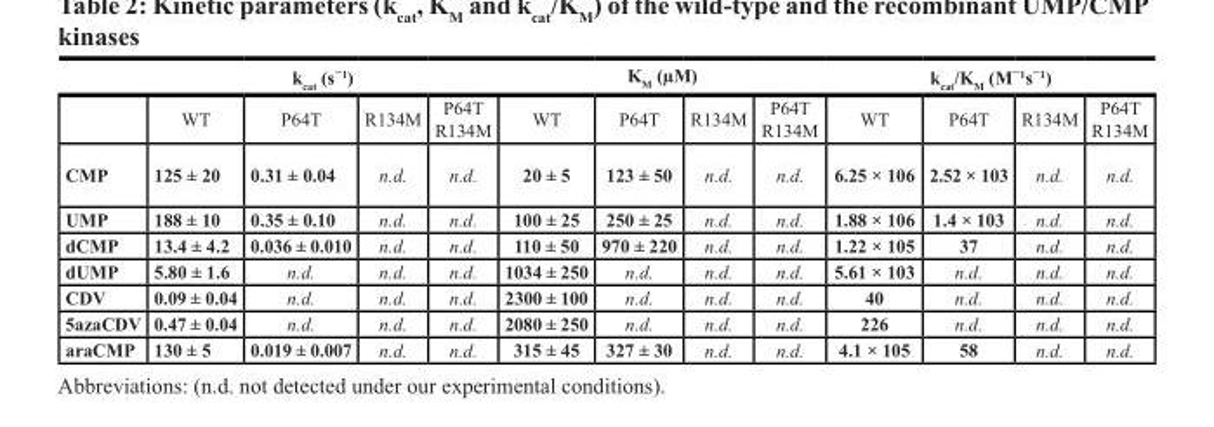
<table><thead><tr><td rowspan="2"></td><td colspan="4">k<sub>cat</sub> (s<sup>−1</sup>)</td><td colspan="4">K<sub>M</sub> (µM)</td><td colspan="4">k<sub>cat</sub>/K<sub>M</sub> (M<sup>−1</sup>s<sup>−1</sup>)</td></tr><tr><td>WT</td><td>P64T</td><td>R134M</td><td>P64T R134M</td><td>WT</td><td>P64T</td><td>R134M</td><td>P64T R134M</td><td>WT</td><td>P64T</td><td>R134M</td><td>P64T R134M</td></tr></thead><tbody><tr><td>CMP</td><td>125 ± 20</td><td>0.31 ± 0.04</td><td>n.d.</td><td>n.d.</td><td>20 ± 5</td><td>123 ± 50</td><td>n.d.</td><td>n.d.</td><td>6.25 × 106</td><td>2.52 × 103</td><td>n.d.</td><td>n.d.</td></tr><tr><td>UMP</td><td>188 ± 10</td><td>0.35 ± 0.10</td><td>n.d.</td><td>n.d.</td><td>100 ± 25</td><td>250 ± 25</td><td>n.d.</td><td>n.d.</td><td>1.88 × 106</td><td>1.4 × 103</td><td>n.d.</td><td>n.d.</td></tr><tr><td>dCMP</td><td>13.4 ± 4.2</td><td>0.036 ± 0.010</td><td>n.d.</td><td>n.d.</td><td>110 ± 50</td><td>970 ± 220</td><td>n.d.</td><td>n.d.</td><td>1.22 × 105</td><td>37</td><td>n.d.</td><td>n.d.</td></tr><tr><td>dUMP</td><td>5.80 ± 1.6</td><td>n.d.</td><td>n.d.</td><td>n.d.</td><td>1034 ± 250</td><td>n.d.</td><td>n.d.</td><td>n.d.</td><td>5.61 × 103</td><td>n.d.</td><td>n.d.</td><td>n.d.</td></tr><tr><td>CDV</td><td>0.09 ± 0.04</td><td>n.d.</td><td>n.d.</td><td>n.d.</td><td>2300 ± 100</td><td>n.d.</td><td>n.d.</td><td>n.d.</td><td>40</td><td>n.d.</td><td>n.d.</td><td>n.d.</td></tr><tr><td>5azaCDV</td><td>0.47 ± 0.04</td><td>n.d.</td><td>n.d.</td><td>n.d.</td><td>2080 ± 250</td><td>n.d.</td><td>n.d.</td><td>n.d.</td><td>226</td><td>n.d.</td><td>n.d.</td><td>n.d.</td></tr><tr><td>araCMP</td><td>130 ± 5</td><td>0.019 ± 0.007</td><td>n.d.</td><td>n.d.</td><td>315 ± 45</td><td>327 ± 30</td><td>n.d.</td><td>n.d.</td><td>4.1 × 105</td><td>58</td><td>n.d.</td><td>n.d.</td></tr></tbody></table>